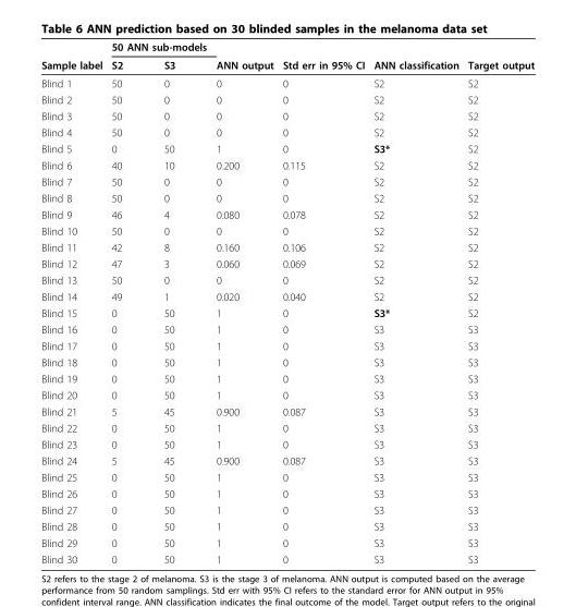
<table><thead><tr><td rowspan="2">Sample label</td><td colspan="2">50 ANN sub-models</td><td rowspan="2">ANN output</td><td rowspan="2">Std err in 95% CI</td><td rowspan="2">ANN classification</td><td rowspan="2">Target output</td></tr><tr><td>S2</td><td>S3</td></tr></thead><tbody><tr><td>Blind 1</td><td>50</td><td>0</td><td>0</td><td>0</td><td>S2</td><td>S2</td></tr><tr><td>Blind 2</td><td>50</td><td>0</td><td>0</td><td>0</td><td>S2</td><td>S2</td></tr><tr><td>Blind 3</td><td>50</td><td>0</td><td>0</td><td>0</td><td>S2</td><td>S2</td></tr><tr><td>Blind 4</td><td>50</td><td>0</td><td>0</td><td>0</td><td>S2</td><td>S2</td></tr><tr><td>Blind 5</td><td>0</td><td>50</td><td>1</td><td>0</td><td>S3*</td><td>S2</td></tr><tr><td>Blind 6</td><td>40</td><td>10</td><td>0.200</td><td>0.115</td><td>S2</td><td>S2</td></tr><tr><td>Blind 7</td><td>50</td><td>0</td><td>0</td><td>0</td><td>S2</td><td>S2</td></tr><tr><td>Blind 8</td><td>50</td><td>0</td><td>0</td><td>0</td><td>S2</td><td>S2</td></tr><tr><td>Blind 9</td><td>46</td><td>4</td><td>0.080</td><td>0.078</td><td>S2</td><td>S2</td></tr><tr><td>Blind 10</td><td>50</td><td>0</td><td>0</td><td>0</td><td>S2</td><td>S2</td></tr><tr><td>Blind 11</td><td>42</td><td>8</td><td>0.160</td><td>0.106</td><td>S2</td><td>S2</td></tr><tr><td>Blind 12</td><td>47</td><td>3</td><td>0.060</td><td>0.069</td><td>S2</td><td>S2</td></tr><tr><td>Blind 13</td><td>50</td><td>0</td><td>0</td><td>0</td><td>S2</td><td>S2</td></tr><tr><td>Blind 14</td><td>49</td><td>1</td><td>0.020</td><td>0.040</td><td>S2</td><td>S2</td></tr><tr><td>Blind 15</td><td>0</td><td>50</td><td>1</td><td>0</td><td>S3*</td><td>S2</td></tr><tr><td>Blind 16</td><td>0</td><td>50</td><td>1</td><td>0</td><td>S3</td><td>S3</td></tr><tr><td>Blind 17</td><td>0</td><td>50</td><td>1</td><td>0</td><td>S3</td><td>S3</td></tr><tr><td>Blind 18</td><td>0</td><td>50</td><td>1</td><td>0</td><td>S3</td><td>S3</td></tr><tr><td>Blind 19</td><td>0</td><td>50</td><td>1</td><td>0</td><td>S3</td><td>S3</td></tr><tr><td>Blind 20</td><td>0</td><td>50</td><td>1</td><td>0</td><td>S3</td><td>S3</td></tr><tr><td>Blind 21</td><td>5</td><td>45</td><td>0.900</td><td>0.087</td><td>S3</td><td>S3</td></tr><tr><td>Blind 22</td><td>0</td><td>50</td><td>1</td><td>0</td><td>S3</td><td>S3</td></tr><tr><td>Blind 23</td><td>0</td><td>50</td><td>1</td><td>0</td><td>S3</td><td>S3</td></tr><tr><td>Blind 24</td><td>5</td><td>45</td><td>0.900</td><td>0.087</td><td>S3</td><td>S3</td></tr><tr><td>Blind 25</td><td>0</td><td>50</td><td>1</td><td>0</td><td>S3</td><td>S3</td></tr><tr><td>Blind 26</td><td>0</td><td>50</td><td>1</td><td>0</td><td>S3</td><td>S3</td></tr><tr><td>Blind 27</td><td>0</td><td>50</td><td>1</td><td>0</td><td>S3</td><td>S3</td></tr><tr><td>Blind 28</td><td>0</td><td>50</td><td>1</td><td>0</td><td>S3</td><td>S3</td></tr><tr><td>Blind 29</td><td>0</td><td>50</td><td>1</td><td>0</td><td>S3</td><td>S3</td></tr><tr><td>Blind 30</td><td>0</td><td>50</td><td>1</td><td>0</td><td>S3</td><td>S3</td></tr></tbody></table>